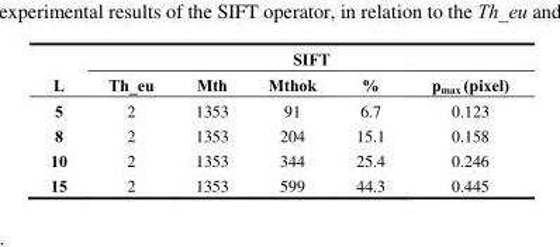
<table><thead><tr><td rowspan="2">L</td><td colspan="5">SIFT</td></tr><tr><td>Th_eu</td><td>Mth</td><td>Mthok</td><td>%</td><td>p<sub>max</sub> (pixel)</td></tr></thead><tbody><tr><td>5</td><td>2</td><td>1353</td><td>91</td><td>6.7</td><td>0.123</td></tr><tr><td>8</td><td>2</td><td>1353</td><td>204</td><td>15.1</td><td>0.158</td></tr><tr><td>10</td><td>2</td><td>1353</td><td>344</td><td>25.4</td><td>0.246</td></tr><tr><td>15</td><td>2</td><td>1353</td><td>599</td><td>44.3</td><td>0.445</td></tr></tbody></table>